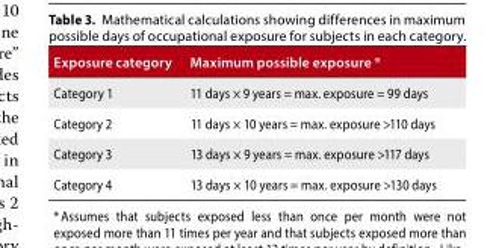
<table><thead><tr><td>Exposure category</td><td>Maximum possible exposure *</td></tr></thead><tbody><tr><td>Category 1</td><td>11 days × 9 years = max. exposure = 99 days</td></tr><tr><td>Category 2</td><td>11 days × 10 years = max. exposure &gt;110 days</td></tr><tr><td>Category 3</td><td>13 days × 9 years = max. exposure &gt;117 days</td></tr><tr><td>Category 4</td><td>13 days × 10 years = max. exposure &gt;130 days</td></tr></tbody></table>